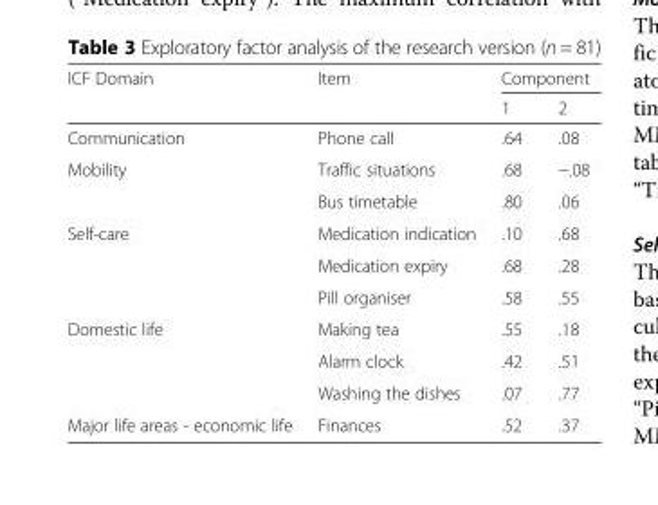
<table><thead><tr><td rowspan="2">ICF Domain</td><td rowspan="2">Item</td><td colspan="2">Component</td></tr><tr><td>1</td><td>2</td></tr></thead><tbody><tr><td>Communication</td><td>Phone call</td><td>.64</td><td>.08</td></tr><tr><td rowspan="2">Mobility</td><td>Traffic situations</td><td>.68</td><td>−.08</td></tr><tr><td>Bus timetable</td><td>.80</td><td>.06</td></tr><tr><td rowspan="3">Self-care</td><td>Medication indication</td><td>.10</td><td>.68</td></tr><tr><td>Medication expiry</td><td>.68</td><td>.28</td></tr><tr><td>Pill organiser</td><td>.58</td><td>.55</td></tr><tr><td rowspan="3">Domestic life</td><td>Making tea</td><td>.55</td><td>.18</td></tr><tr><td>Alarm clock</td><td>.42</td><td>.51</td></tr><tr><td>Washing the dishes</td><td>.07</td><td>.77</td></tr><tr><td>Major life areas - economic life</td><td>Finances</td><td>.52</td><td>.37</td></tr></tbody></table>